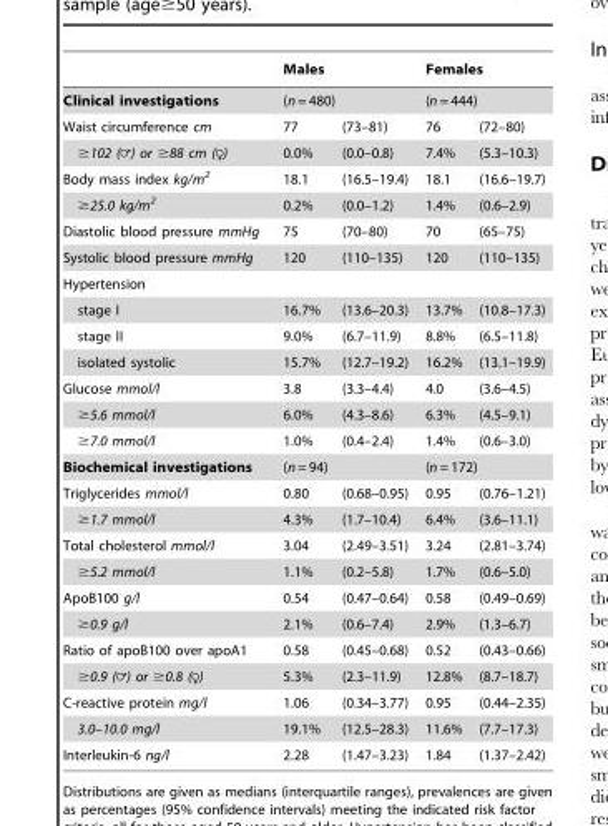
<table><thead><tr><td rowspan="3">Clinical investigations Waist circumference cm</td><td rowspan="2" colspan="2">Males (n = 480)</td><td rowspan="2" colspan="2">Females (n = 444)</td></tr><tr></tr><tr><td>77</td><td>(73–81)</td><td>76</td><td>(72–80)</td></tr></thead><tbody><tr><td>$102 (=) or $88 cm (R)</td><td>0.0%</td><td>(0.0–0.8)</td><td>7.4%</td><td>(5.3–10.3)</td></tr><tr><td>Body mass index kg/m<sup>2</sup></td><td>18.1</td><td>(16.5–19.4)</td><td>18.1</td><td>(16.6–19.7)</td></tr><tr><td>≥25.0 kg/m<sup>2</sup></td><td>0.2%</td><td>(0.0–1.2)</td><td>1.4%</td><td>(0.6–2.9)</td></tr><tr><td>Diastolic blood pressure mmHg</td><td>75</td><td>(70–80)</td><td>70</td><td>(65–75)</td></tr><tr><td>Systolic blood pressure mmHg</td><td>120</td><td>(110–135)</td><td>120</td><td>(110–135)</td></tr><tr><td colspan="5">Hypertension</td></tr><tr><td>stage I</td><td>16.7%</td><td>(13.6–20.3)</td><td>13.7%</td><td>(10.8–17.3)</td></tr><tr><td>stage II</td><td>9.0%</td><td>(6.7–11.9)</td><td>8.8%</td><td>(6.5–11.8)</td></tr><tr><td>isolated systolic</td><td>15.7%</td><td>(12.7–19.2)</td><td>16.2%</td><td>(13.1–19.9)</td></tr><tr><td>Glucose mmol/l</td><td>3.8</td><td>(3.3–4.4)</td><td>4.0</td><td>(3.6–4.5)</td></tr><tr><td>≥5.6 mmol/l</td><td>6.0%</td><td>(4.3–8.6)</td><td>6.3%</td><td>(4.5–9.1)</td></tr><tr><td>≥7.0 mmol/l</td><td>1.0%</td><td>(0.4–2.4)</td><td>1.4%</td><td>(0.6–3.0)</td></tr><tr><td>Biochemical investigations</td><td colspan="2">(n = 94)</td><td colspan="2">(n = 172)</td></tr><tr><td>Triglycerides mmol/l</td><td>0.80</td><td>(0.68–0.95)</td><td>0.95</td><td>(0.76–1.21)</td></tr><tr><td>≥1.7 mmol/l</td><td>4.3%</td><td>(1.7–10.4)</td><td>6.4%</td><td>(3.6–11.1)</td></tr><tr><td>Total cholesterol mmol/l</td><td>3.04</td><td>(2.49–3.51)</td><td>3.24</td><td>(2.81–3.74)</td></tr><tr><td>≥5.2 mmol/l</td><td>1.1%</td><td>(0.2–5.8)</td><td>1.7%</td><td>(0.6–5.0)</td></tr><tr><td>ApoB100 g/l</td><td>0.54</td><td>(0.47–0.64)</td><td>0.58</td><td>(0.49–0.69)</td></tr><tr><td>≥0.9 g/l</td><td>2.1%</td><td>(0.6–7.4)</td><td>2.9%</td><td>(1.3–6.7)</td></tr><tr><td>Ratio of apoB100 over apoA1</td><td>0.58</td><td>(0.45–0.68)</td><td>0.52</td><td>(0.43–0.66)</td></tr><tr><td>$0.9 (=) or $0.8 (R)</td><td>5.3%</td><td>(2.3–11.9)</td><td>12.8%</td><td>(8.7–18.7)</td></tr><tr><td>C-reactive protein mg/l</td><td>1.06</td><td>(0.34–3.77)</td><td>0.95</td><td>(0.44–2.35)</td></tr><tr><td>3.0–10.0 mg/l</td><td>19.1%</td><td>(12.5–28.3)</td><td>11.6%</td><td>(7.7–17.3)</td></tr><tr><td>Interleukin-6 ng/l</td><td>2.28</td><td>(1.47–3.23)</td><td>1.84</td><td>(1.37–2.42)</td></tr></tbody></table>